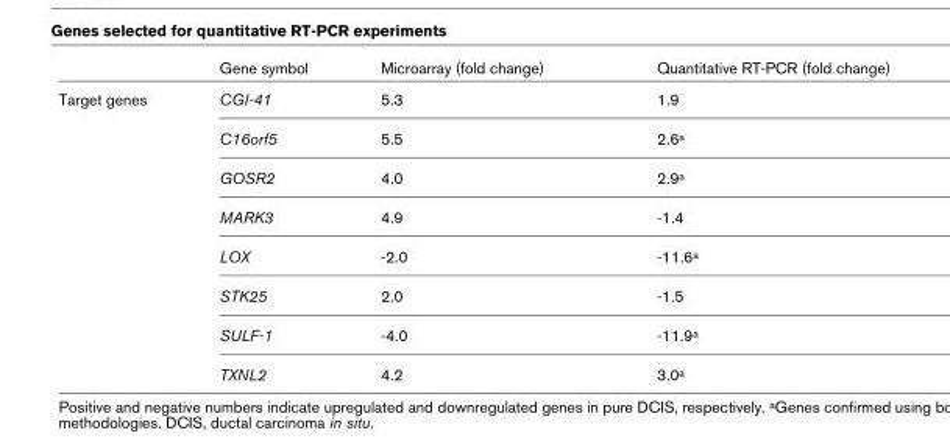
<table><thead><tr><td></td><td>Gene symbol</td><td>Microarray (fold change)</td><td>Quantitative RT-PCR (fold change)</td></tr></thead><tbody><tr><td rowspan="8">Target genes</td><td>CGI-41</td><td>5.3</td><td>1.9</td></tr><tr><td>C16orf5</td><td>5.5</td><td>2.6<sup>a</sup></td></tr><tr><td>GOSR2</td><td>4.0</td><td>2.9<sup>a</sup></td></tr><tr><td>MARK3</td><td>4.9</td><td>-1.4</td></tr><tr><td>LOX</td><td>-2.0</td><td>-11.6<sup>a</sup></td></tr><tr><td>STK25</td><td>2.0</td><td>-1.5</td></tr><tr><td>SULF-1</td><td>-4.0</td><td>-11.9<sup>a</sup></td></tr><tr><td>TXNL2</td><td>4.2</td><td>3.0<sup>a</sup></td></tr></tbody></table>